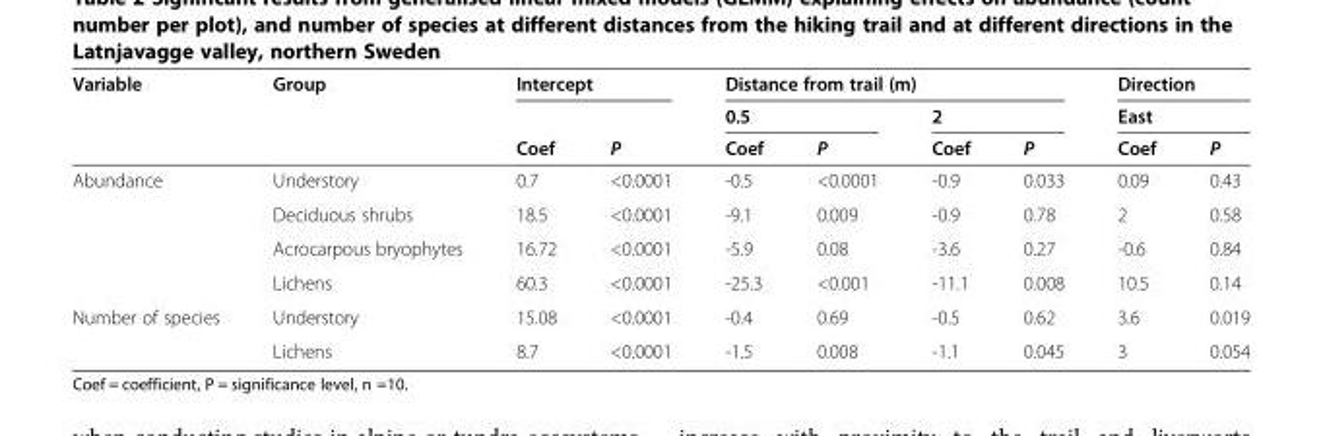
<table><thead><tr><td rowspan="3">Variable</td><td rowspan="3">Group</td><td colspan="2">Intercept</td><td colspan="4">Distance from trail (m)</td><td rowspan="2" colspan="2">Direction East</td></tr><tr><td rowspan="2">Coef</td><td rowspan="2">P</td><td colspan="2">0.5</td><td colspan="2">2</td></tr><tr><td>Coef</td><td>P</td><td>Coef</td><td>P</td><td>Coef</td><td>P</td></tr></thead><tbody><tr><td rowspan="4">Abundance</td><td>Understory</td><td>0.7</td><td>&lt;0.0001</td><td>-0.5</td><td>&lt;0.0001</td><td>-0.9</td><td>0.033</td><td>0.09</td><td>0.43</td></tr><tr><td>Deciduous shrubs</td><td>18.5</td><td>&lt;0.0001</td><td>-9.1</td><td>0.009</td><td>-0.9</td><td>0.78</td><td>2</td><td>0.58</td></tr><tr><td>Acrocarpous bryophytes</td><td>16.72</td><td>&lt;0.0001</td><td>-5.9</td><td>0.08</td><td>-3.6</td><td>0.27</td><td>-0.6</td><td>0.84</td></tr><tr><td>Lichens</td><td>60.3</td><td>&lt;0.0001</td><td>-25.3</td><td>&lt;0.001</td><td>-11.1</td><td>0.008</td><td>10.5</td><td>0.14</td></tr><tr><td rowspan="2">Number of species</td><td>Understory</td><td>15.08</td><td>&lt;0.0001</td><td>-0.4</td><td>0.69</td><td>-0.5</td><td>0.62</td><td>3.6</td><td>0.019</td></tr><tr><td>Lichens</td><td>8.7</td><td>&lt;0.0001</td><td>-1.5</td><td>0.008</td><td>-1.1</td><td>0.045</td><td>3</td><td>0.054</td></tr></tbody></table>